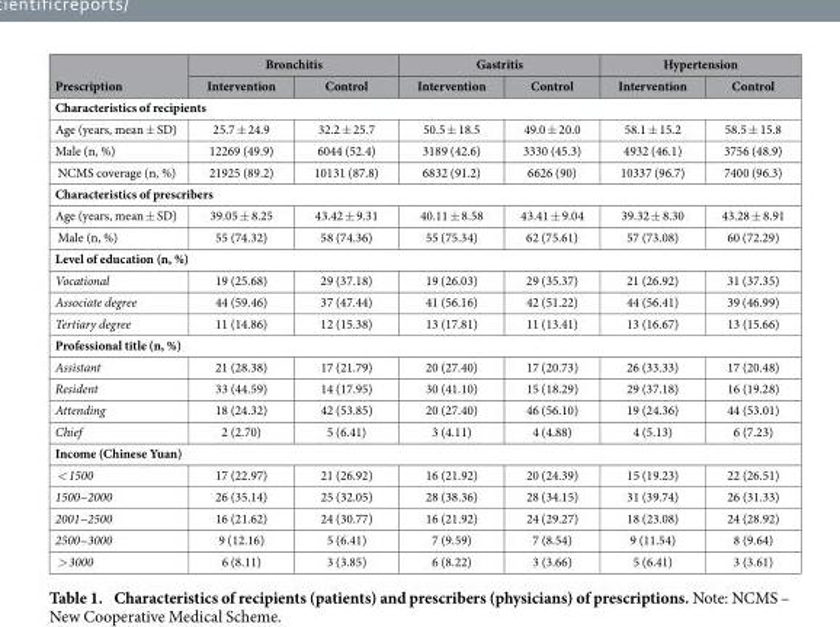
<table><thead><tr><td rowspan="2">Prescription</td><td colspan="2">Bronchitis</td><td colspan="2">Gastritis</td><td colspan="2">Hypertension</td></tr><tr><td>Intervention</td><td>Control</td><td>Intervention</td><td>Control</td><td>Intervention</td><td>Control</td></tr></thead><tbody><tr><td colspan="7">Characteristics of recipients</td></tr><tr><td>Age (years, mean ± SD)</td><td>25.7 ± 24.9</td><td>32.2 ± 25.7</td><td>50.5 ± 18.5</td><td>49.0 ± 20.0</td><td>58.1 ± 15.2</td><td>58.5 ± 15.8</td></tr><tr><td>Male (n, %)</td><td>12269 (49.9)</td><td>6044 (52.4)</td><td>3189 (42.6)</td><td>3330 (45.3)</td><td>4932 (46.1)</td><td>3756 (48.9)</td></tr><tr><td>NCMS coverage (n, %)</td><td>21925 (89.2)</td><td>10131 (87.8)</td><td>6832 (91.2)</td><td>6626 (90)</td><td>10337 (96.7)</td><td>7400 (96.3)</td></tr><tr><td colspan="7">Characteristics of prescribers</td></tr><tr><td>Age (years, mean ± SD)</td><td>39.05 ± 8.25</td><td>43.42 ± 9.31</td><td>40.11 ± 8.58</td><td>43.41 ± 9.04</td><td>39.32 ± 8.30</td><td>43.28 ± 8.91</td></tr><tr><td>Male (n, %)</td><td>55 (74.32)</td><td>58 (74.36)</td><td>55 (75.34)</td><td>62 (75.61)</td><td>57 (73.08)</td><td>60 (72.29)</td></tr><tr><td colspan="7">Level of education (n, %)</td></tr><tr><td>Vocational</td><td>19 (25.68)</td><td>29 (37.18)</td><td>19 (26.03)</td><td>29 (35.37)</td><td>21 (26.92)</td><td>31 (37.35)</td></tr><tr><td>Associate degree</td><td>44 (59.46)</td><td>37 (47.44)</td><td>41 (56.16)</td><td>42 (51.22)</td><td>44 (56.41)</td><td>39 (46.99)</td></tr><tr><td>Tertiary degree</td><td>11 (14.86)</td><td>12 (15.38)</td><td>13 (17.81)</td><td>11 (13.41)</td><td>13 (16.67)</td><td>13 (15.66)</td></tr><tr><td colspan="7">Professional title (n, %)</td></tr><tr><td>Assistant</td><td>21 (28.38)</td><td>17 (21.79)</td><td>20 (27.40)</td><td>17 (20.73)</td><td>26 (33.33)</td><td>17 (20.48)</td></tr><tr><td>Resident</td><td>33 (44.59)</td><td>14 (17.95)</td><td>30 (41.10)</td><td>15 (18.29)</td><td>29 (37.18)</td><td>16 (19.28)</td></tr><tr><td>Attending</td><td>18 (24.32)</td><td>42 (53.85)</td><td>20 (27.40)</td><td>46 (56.10)</td><td>19 (24.36)</td><td>44 (53.01)</td></tr><tr><td>Chief</td><td>2 (2.70)</td><td>5 (6.41)</td><td>3 (4.11)</td><td>4 (4.88)</td><td>4 (5.13)</td><td>6 (7.23)</td></tr><tr><td colspan="7">Income (Chinese Yuan)</td></tr><tr><td>&lt; 1500</td><td>17 (22.97)</td><td>21 (26.92)</td><td>16 (21.92)</td><td>20 (24.39)</td><td>15 (19.23)</td><td>22 (26.51)</td></tr><tr><td>1500~2000</td><td>26 (35.14)</td><td>25 (32.05)</td><td>28 (38.36)</td><td>28 (34.15)</td><td>31 (39.74)</td><td>26 (31.33)</td></tr><tr><td>2001~2500</td><td>16 (21.62)</td><td>24 (30.77)</td><td>16 (21.92)</td><td>24 (29.27)</td><td>18 (23.08)</td><td>24 (28.92)</td></tr><tr><td>2500~3000</td><td>9 (12.16)</td><td>5 (6.41)</td><td>7 (9.59)</td><td>7 (8.54)</td><td>9 (11.54)</td><td>8 (9.64)</td></tr><tr><td>&gt; 3000</td><td>6 (8.11)</td><td>3 (3.85)</td><td>6 (8.22)</td><td>3 (3.66)</td><td>5 (6.41)</td><td>3 (3.61)</td></tr></tbody></table>